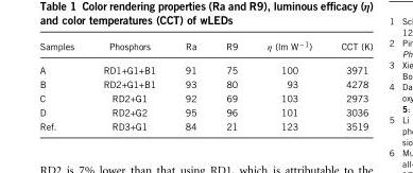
<table><thead><tr><td>Samples</td><td>Phosphors</td><td>Ra</td><td>R9</td><td>η (lm W <sup>− 1</sup>)</td><td>CCT (K)</td></tr></thead><tbody><tr><td>A</td><td>RD1+G1+B1</td><td>91</td><td>75</td><td>100</td><td>3971</td></tr><tr><td>B</td><td>RD2+G1+B1</td><td>93</td><td>80</td><td>93</td><td>4278</td></tr><tr><td>C</td><td>RD2+G1</td><td>92</td><td>69</td><td>103</td><td>2973</td></tr><tr><td>D</td><td>RD2+G2</td><td>95</td><td>96</td><td>101</td><td>3036</td></tr><tr><td>Ref.</td><td>RD3+G1</td><td>84</td><td>21</td><td>123</td><td>3519</td></tr></tbody></table>